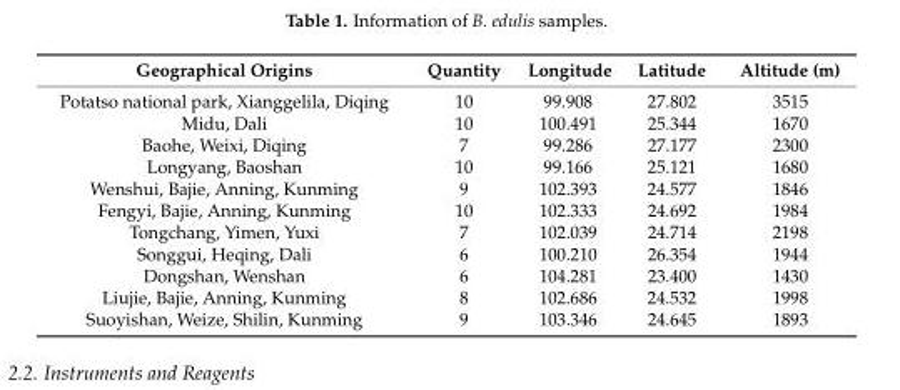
<table><thead><tr><td>Geographical Origins</td><td>Quantity</td><td>Longitude</td><td>Latitude</td><td>Altitude (m)</td></tr></thead><tbody><tr><td>Potatso national park, Xianggelila, Diqing</td><td>10</td><td>99.908</td><td>27.802</td><td>3515</td></tr><tr><td>Midu, Dali</td><td>10</td><td>100.491</td><td>25.344</td><td>1670</td></tr><tr><td>Baohe, Weixi, Diqing</td><td>7</td><td>99.286</td><td>27.177</td><td>2300</td></tr><tr><td>Longyang, Baoshan</td><td>10</td><td>99.166</td><td>25.121</td><td>1680</td></tr><tr><td>Wenshui, Bajie, Anning, Kunming</td><td>9</td><td>102.393</td><td>24.577</td><td>1846</td></tr><tr><td>Fengyi, Bajie, Anning, Kunming</td><td>10</td><td>102.333</td><td>24.692</td><td>1984</td></tr><tr><td>Tongchang, Yimen, Yuxi</td><td>7</td><td>102.039</td><td>24.714</td><td>2198</td></tr><tr><td>Songgui, Heqing, Dali</td><td>6</td><td>100.210</td><td>26.354</td><td>1944</td></tr><tr><td>Dongshan, Wenshan</td><td>6</td><td>104.281</td><td>23.400</td><td>1430</td></tr><tr><td>Liujie, Bajie, Anning, Kunming</td><td>8</td><td>102.686</td><td>24.532</td><td>1998</td></tr><tr><td>Suoyishan, Weize, Shilin, Kunming</td><td>9</td><td>103.346</td><td>24.645</td><td>1893</td></tr></tbody></table>